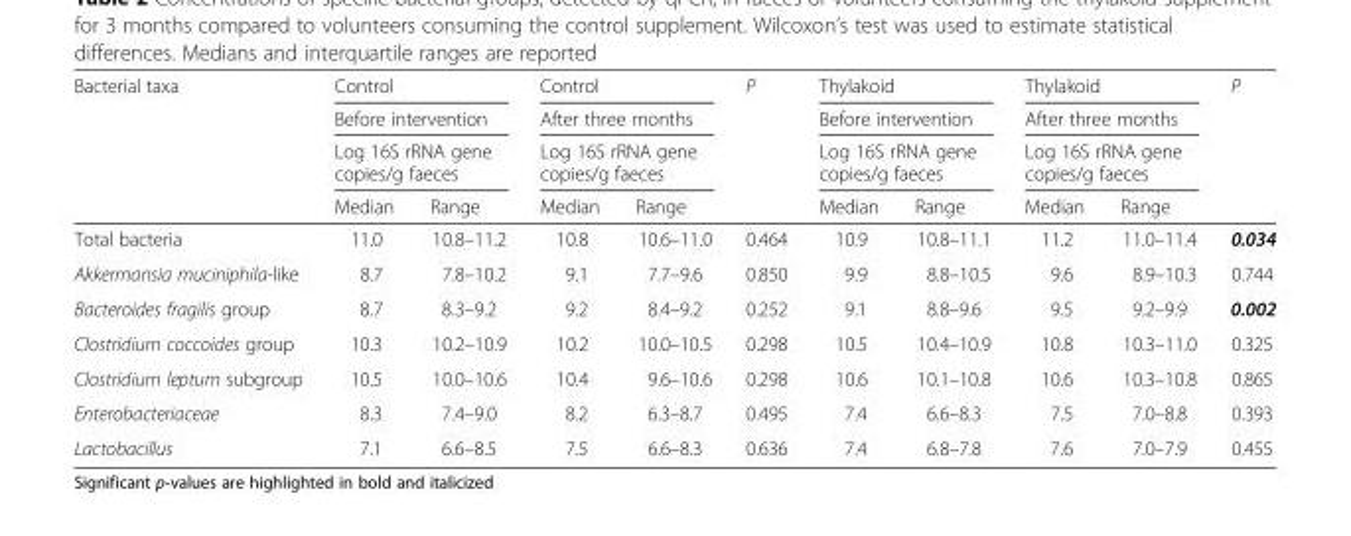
<table><thead><tr><td rowspan="4">Bacterial taxa</td><td rowspan="3" colspan="2">Control Before intervention Log 16S rRNA gene copies/g faeces</td><td rowspan="3" colspan="2">Control After three months Log 16S rRNA gene copies/g faeces</td><td rowspan="4">P</td><td rowspan="3" colspan="2">Thylakoid Before intervention Log 16S rRNA gene copies/g faeces</td><td rowspan="3" colspan="2">Thylakoid After three months Log 16S rRNA gene copies/g faeces</td><td rowspan="4">P</td></tr><tr></tr><tr></tr><tr><td>Median</td><td>Range</td><td>Median</td><td>Range</td><td>Median</td><td>Range</td><td>Median</td><td>Range</td></tr></thead><tbody><tr><td>Total bacteria</td><td>11.0</td><td>10.8–11.2</td><td>10.8</td><td>10.6–11.0</td><td>0.464</td><td>10.9</td><td>10.8–11.1</td><td>11.2</td><td>11.0–11.4</td><td>0.034</td></tr><tr><td>Akkermansia muciniphila-like</td><td>8.7</td><td>7.8–10.2</td><td>9.1</td><td>7.7–9.6</td><td>0.850</td><td>9.9</td><td>8.8–10.5</td><td>9.6</td><td>8.9–10.3</td><td>0.744</td></tr><tr><td>Bacteroides fragilis group</td><td>8.7</td><td>8.3–9.2</td><td>9.2</td><td>8.4–9.2</td><td>0.252</td><td>9.1</td><td>8.8–9.6</td><td>9.5</td><td>9.2–9.9</td><td>0.002</td></tr><tr><td>Clostridium coccoides group</td><td>10.3</td><td>10.2–10.9</td><td>10.2</td><td>10.0–10.5</td><td>0.298</td><td>10.5</td><td>10.4–10.9</td><td>10.8</td><td>10.3–11.0</td><td>0.325</td></tr><tr><td>Clostridium leptum subgroup</td><td>10.5</td><td>10.0–10.6</td><td>10.4</td><td>9.6–10.6</td><td>0.298</td><td>10.6</td><td>10.1–10.8</td><td>10.6</td><td>10.3–10.8</td><td>0.865</td></tr><tr><td>Enterobacteriaceae</td><td>8.3</td><td>7.4–9.0</td><td>8.2</td><td>6.3–8.7</td><td>0.495</td><td>7.4</td><td>6.6–8.3</td><td>7.5</td><td>7.0–8.8</td><td>0.393</td></tr><tr><td>Lactobacillus</td><td>7.1</td><td>6.6–8.5</td><td>7.5</td><td>6.6–8.3</td><td>0.636</td><td>7.4</td><td>6.8–7.8</td><td>7.6</td><td>7.0–7.9</td><td>0.455</td></tr></tbody></table>